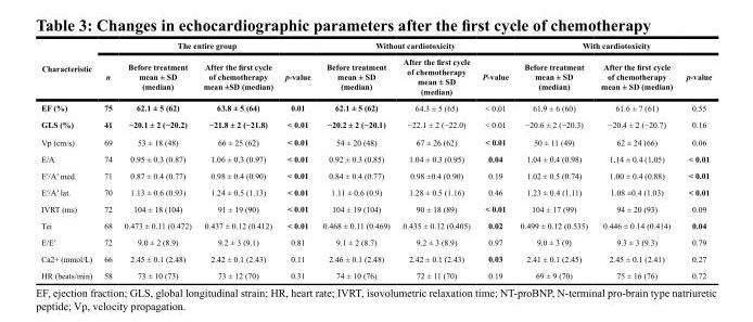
<table><thead><tr><td rowspan="2">Characteristic</td><td colspan="4">The entire group</td><td colspan="3">Without cardiotoxicity</td><td colspan="3">With cardiotoxicity</td></tr><tr><td>n</td><td>Before treatment mean ± SD (median)</td><td>After the first cycle of chemotherapy mean ±SD (median)</td><td>p-value</td><td>Before treatment mean ± SD (median)</td><td>After the first cycle of chemotherapy mean ± SD (median)</td><td>P-value</td><td>Before treatment mean ± SD (median)</td><td>After the first cycle of chemotherapy mean ± SD (median)</td><td>p-value</td></tr></thead><tbody><tr><td>EF (%)</td><td>75</td><td>62.1 ± 5 (62)</td><td>63.8 ± 5 (64)</td><td>0.01</td><td>62.1 ± 5 (62)</td><td>64.3 ± 5 (65)</td><td>&lt; 0.01</td><td>61.9 ± 6 (60)</td><td>61.6 ± 7 (61)</td><td>0.55</td></tr><tr><td>GLS (%)</td><td>41</td><td>−20.1 ± 2 (−20.2)</td><td>−21.8 ± 2 (−21.8)</td><td>&lt; 0.01</td><td>−20.2 ± 2 (−20.1)</td><td>−22.1 ± 2 (−22.0)</td><td>&lt; 0.01</td><td>−20.6 ± 2 (−20.3)</td><td>−20.4 ± 2 (−20.7)</td><td>0.16</td></tr><tr><td>Vp (cm/s)</td><td>69</td><td>53 ± 18 (48)</td><td>66 ± 25 (62)</td><td>&lt; 0.01</td><td>54 ± 20 (48)</td><td>67 ± 26 (62)</td><td>&lt; 0.01</td><td>50 ± 11 (49)</td><td>62 ± 24 (66)</td><td>0.06</td></tr><tr><td>E/A</td><td>74</td><td>0.95 ± 0.3 (0.87)</td><td>1.06 ± 0.3 (0.97)</td><td>&lt; 0.01</td><td>0.92 ± 0.3 (0.85)</td><td>1.04 ± 0.3 (0.95)</td><td>0.04</td><td>1.04 ± 0.4 (0.98)</td><td>1.14 ± 0.4 (1.05)</td><td>&lt; 0.01</td></tr><tr><td>E′/A′ med.</td><td>71</td><td>0.87 ± 0.4 (0.77)</td><td>0.98 ± 0.4 (0.90)</td><td>&lt; 0.01</td><td>0.84 ± 0.4 (0.77)</td><td>0.98 ±0.4 (0.90)</td><td>0.19</td><td>1.02 ± 0.5 (0.74)</td><td>1.00 ± 0.4 (0.88)</td><td>&lt; 0.01</td></tr><tr><td>E′/A′ lat.</td><td>70</td><td>1.13 ± 0.6 (0.93)</td><td>1.24 ± 0.5 (1.13)</td><td>&lt; 0.01</td><td>1.11 ± 0.6 (0.9)</td><td>1.28 ± 0.5 (1.16)</td><td>0.46</td><td>1.23 ± 0.4 (1.11)</td><td>1.08 ±0.4 (1.03)</td><td>&lt; 0.01</td></tr><tr><td>IVRT (ms)</td><td>72</td><td>104 ± 18 (104)</td><td>91 ± 19 (90)</td><td>&lt; 0.01</td><td>104 ± 19 (104)</td><td>90 ± 18 (89)</td><td>&lt; 0.01</td><td>104 ± 17 (99)</td><td>94 ± 20 (93)</td><td>0.09</td></tr><tr><td>Tei</td><td>68</td><td>0.473 ± 0.11 (0.472)</td><td>0.437 ± 0.12 (0.412)</td><td>&lt; 0.01</td><td>0.468 ± 0.11 (0.469)</td><td>0.435 ± 0.12 (0.405)</td><td>0.02</td><td>0.499 ± 0.12 (0.535)</td><td>0.446 ± 0.14 (0.414)</td><td>0.04</td></tr><tr><td>E/E′</td><td>72</td><td>9.0 ± 2 (8.9)</td><td>9.2 ± 3 (9.1)</td><td>0.81</td><td>9.1 ± 2 (8.7)</td><td>9.2 ± 3 (8.9)</td><td>0.97</td><td>9.0 ± 3 (9)</td><td>9.3 ± 3 (9.3)</td><td>0.79</td></tr><tr><td>Ca2+ (mmol/L)</td><td>66</td><td>2.45 ± 0.1 (2.48)</td><td>2.42 ± 0.1 (2.43)</td><td>0.11</td><td>2.46 ± 0.1 (2.48)</td><td>2.42 ± 0.1 (2.43)</td><td>0.03</td><td>2.41 ± 0.1 (2.45)</td><td>2.45 ± 0.1 (2.41)</td><td>0.27</td></tr><tr><td>HR (beats/min)</td><td>58</td><td>73 ± 10 (73)</td><td>73 ± 12 (70)</td><td>0.31</td><td>74 ± 10 (76)</td><td>72 ± 11 (70)</td><td>0.19</td><td>69 ± 9 (70)</td><td>75 ± 16 (76)</td><td>0.72</td></tr></tbody></table>